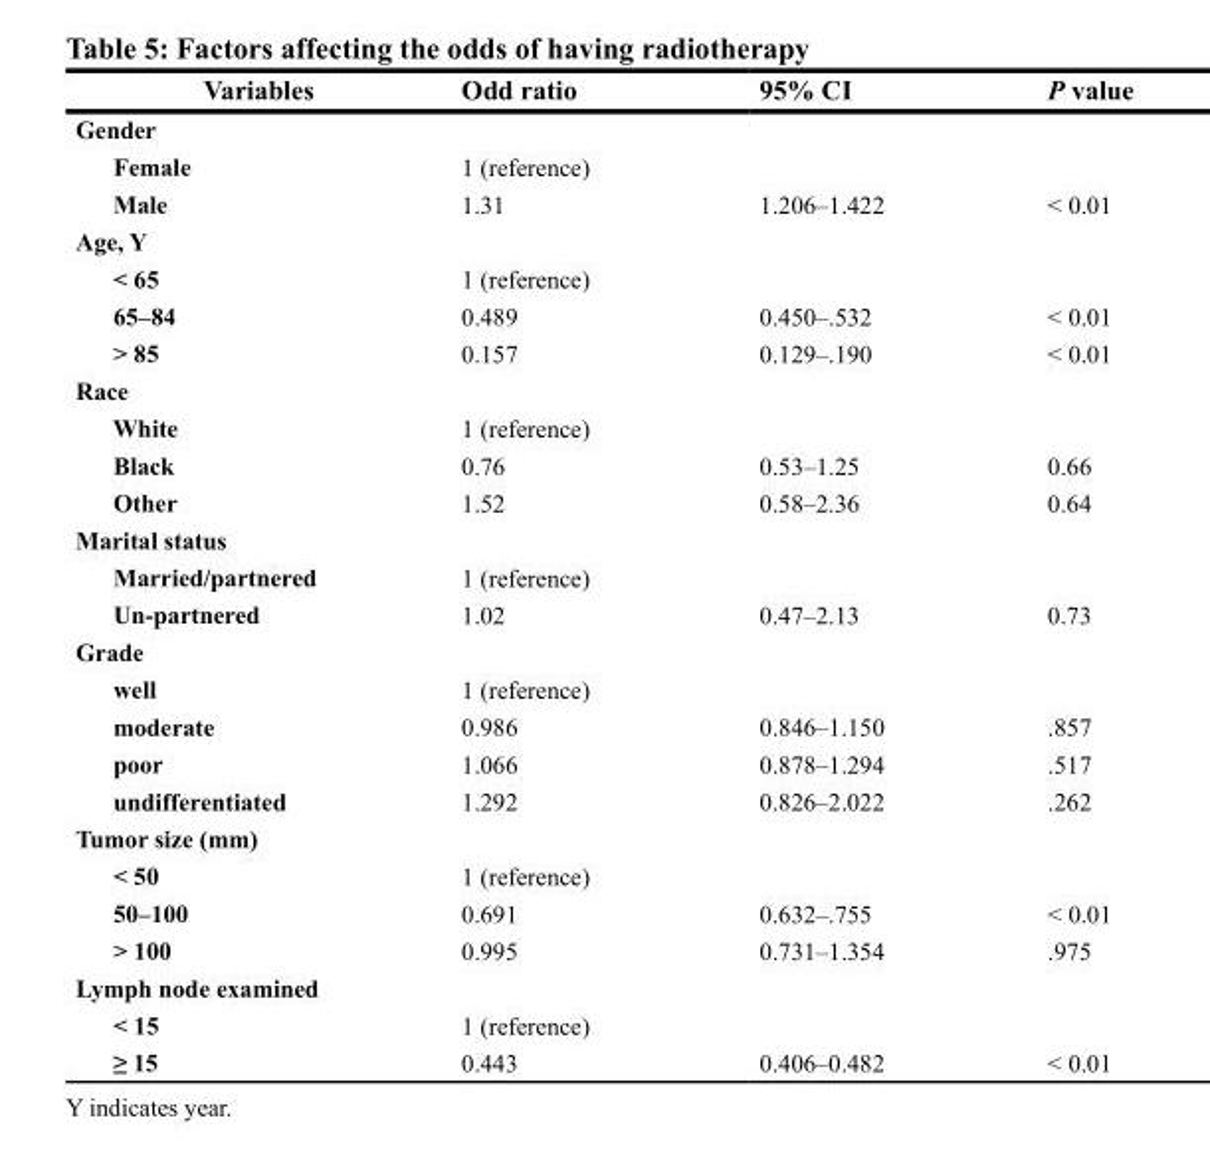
<table><thead><tr><td>Variables</td><td>Odd ratio</td><td>95% CI</td><td>P value</td></tr></thead><tbody><tr><td colspan="4">Gender</td></tr><tr><td>Female</td><td>1 (reference)</td><td></td><td></td></tr><tr><td>Male</td><td>1.31</td><td>1.206–1.422</td><td>&lt; 0.01</td></tr><tr><td colspan="4">Age, Y</td></tr><tr><td>&lt; 65</td><td>1 (reference)</td><td></td><td></td></tr><tr><td>65–84</td><td>0.489</td><td>0.450–.532</td><td>&lt; 0.01</td></tr><tr><td>&gt; 85</td><td>0.157</td><td>0.129–.190</td><td>&lt; 0.01</td></tr><tr><td colspan="4">Race</td></tr><tr><td>White</td><td>1 (reference)</td><td></td><td></td></tr><tr><td>Black</td><td>0.76</td><td>0.53–1.25</td><td>0.66</td></tr><tr><td>Other</td><td>1.52</td><td>0.58–2.36</td><td>0.64</td></tr><tr><td colspan="4">Marital status</td></tr><tr><td>Married/partnered</td><td>1 (reference)</td><td></td><td></td></tr><tr><td>Un-partnered</td><td>1.02</td><td>0.47–2.13</td><td>0.73</td></tr><tr><td colspan="4">Grade</td></tr><tr><td>well</td><td>1 (reference)</td><td></td><td></td></tr><tr><td>moderate</td><td>0.986</td><td>0.846–1.150</td><td>.857</td></tr><tr><td>poor</td><td>1.066</td><td>0.878–1.294</td><td>.517</td></tr><tr><td>undifferentiated</td><td>1.292</td><td>0.826–2.022</td><td>.262</td></tr><tr><td colspan="4">Tumor size (mm)</td></tr><tr><td>&lt; 50</td><td>1 (reference)</td><td></td><td></td></tr><tr><td>50–100</td><td>0.691</td><td>0.632–.755</td><td>&lt; 0.01</td></tr><tr><td>&gt; 100</td><td>0.995</td><td>0.731–1.354</td><td>.975</td></tr><tr><td colspan="4">Lymph node examined</td></tr><tr><td>&lt; 15</td><td>1 (reference)</td><td></td><td></td></tr><tr><td>≥ 15</td><td>0.443</td><td>0.406–0.482</td><td>&lt; 0.01</td></tr></tbody></table>